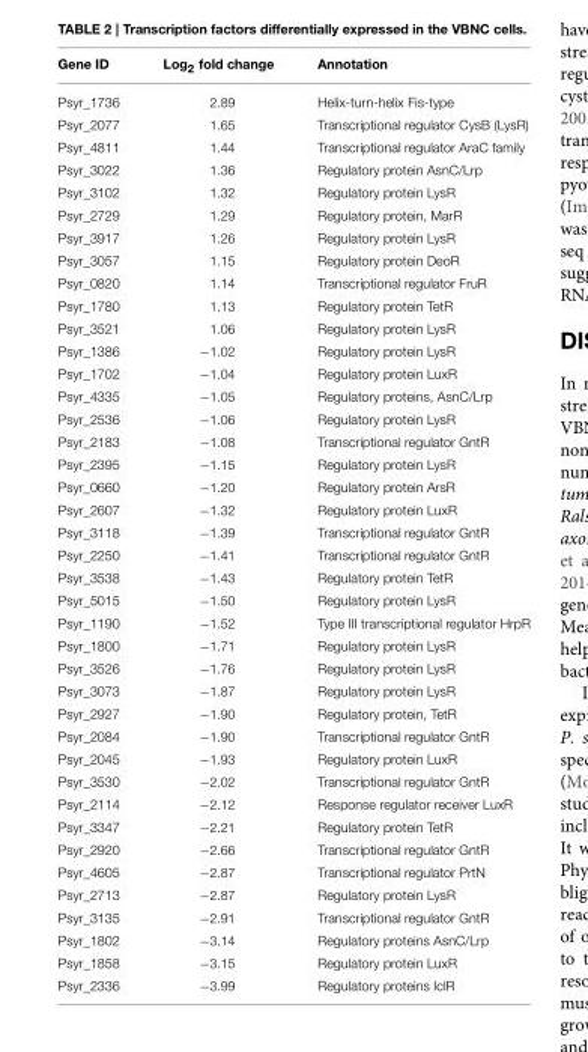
<table><thead><tr><td>Gene ID</td><td>Log<sub>2</sub> fold change</td><td>Annotation</td></tr></thead><tbody><tr><td>Psyr_1736</td><td>2.89</td><td>Helix-turn-helix Fis-type</td></tr><tr><td>Psyr_2077</td><td>1.65</td><td>Transcriptional regulator CysB (LysR)</td></tr><tr><td>Psyr_4811</td><td>1.44</td><td>Transcriptional regulator AraC family</td></tr><tr><td>Psyr_3022</td><td>1.36</td><td>Regulatory protein AsnC/Lrp</td></tr><tr><td>Psyr_3102</td><td>1.32</td><td>Regulatory protein LysR</td></tr><tr><td>Psyr_2729</td><td>1.29</td><td>Regulatory protein, MarR</td></tr><tr><td>Psyr_3917</td><td>1.26</td><td>Regulatory protein LysR</td></tr><tr><td>Psyr_3057</td><td>1.15</td><td>Regulatory protein DeoR</td></tr><tr><td>Psyr_0820</td><td>1.14</td><td>Transcriptional regulator FruR</td></tr><tr><td>Psyr_1780</td><td>1.13</td><td>Regulatory protein TetR</td></tr><tr><td>Psyr_3521</td><td>1.06</td><td>Regulatory protein LysR</td></tr><tr><td>Psyr_1386</td><td>−1.02</td><td>Regulatory protein LysR</td></tr><tr><td>Psyr_1702</td><td>−1.04</td><td>Regulatory protein LuxR</td></tr><tr><td>Psyr_4335</td><td>−1.05</td><td>Regulatory proteins, AsnC/Lrp</td></tr><tr><td>Psyr_2536</td><td>−1.06</td><td>Regulatory protein LysR</td></tr><tr><td>Psyr_2183</td><td>−1.08</td><td>Transcriptional regulator GntR</td></tr><tr><td>Psyr_2395</td><td>−1.15</td><td>Regulatory protein LysR</td></tr><tr><td>Psyr_0660</td><td>−1.20</td><td>Regulatory protein ArsR</td></tr><tr><td>Psyr_2607</td><td>−1.32</td><td>Regulatory protein LuxR</td></tr><tr><td>Psyr_3118</td><td>−1.39</td><td>Transcriptional regulator GntR</td></tr><tr><td>Psyr_2250</td><td>−1.41</td><td>Transcriptional regulator GntR</td></tr><tr><td>Psyr_3538</td><td>−1.43</td><td>Regulatory protein TetR</td></tr><tr><td>Psyr_5015</td><td>−1.50</td><td>Regulatory protein LysR</td></tr><tr><td>Psyr_1190</td><td>−1.52</td><td>Type III transcriptional regulator HrpR</td></tr><tr><td>Psyr_1800</td><td>−1.71</td><td>Regulatory protein LysR</td></tr><tr><td>Psyr_3526</td><td>−1.76</td><td>Regulatory protein LysR</td></tr><tr><td>Psyr_3073</td><td>−1.87</td><td>Regulatory protein LysR</td></tr><tr><td>Psyr_2927</td><td>−1.90</td><td>Regulatory protein, TetR</td></tr><tr><td>Psyr_2084</td><td>−1.90</td><td>Transcriptional regulator GntR</td></tr><tr><td>Psyr_2045</td><td>−1.93</td><td>Regulatory protein LuxR</td></tr><tr><td>Psyr_3530</td><td>−2.02</td><td>Transcriptional regulator GntR</td></tr><tr><td>Psyr_2114</td><td>−2.12</td><td>Response regulator receiver LuxR</td></tr><tr><td>Psyr_3347</td><td>−2.21</td><td>Regulatory protein TetR</td></tr><tr><td>Psyr_2920</td><td>−2.66</td><td>Transcriptional regulator GntR</td></tr><tr><td>Psyr_4605</td><td>−2.87</td><td>Transcriptional regulator PrtN</td></tr><tr><td>Psyr_2713</td><td>−2.87</td><td>Regulatory protein LysR</td></tr><tr><td>Psyr_3135</td><td>−2.91</td><td>Transcriptional regulator GntR</td></tr><tr><td>Psyr_1802</td><td>−3.14</td><td>Regulatory proteins AsnC/Lrp</td></tr><tr><td>Psyr_1858</td><td>−3.15</td><td>Regulatory protein LuxR</td></tr><tr><td>Psyr_2336</td><td>−3.99</td><td>Regulatory proteins IclR</td></tr></tbody></table>